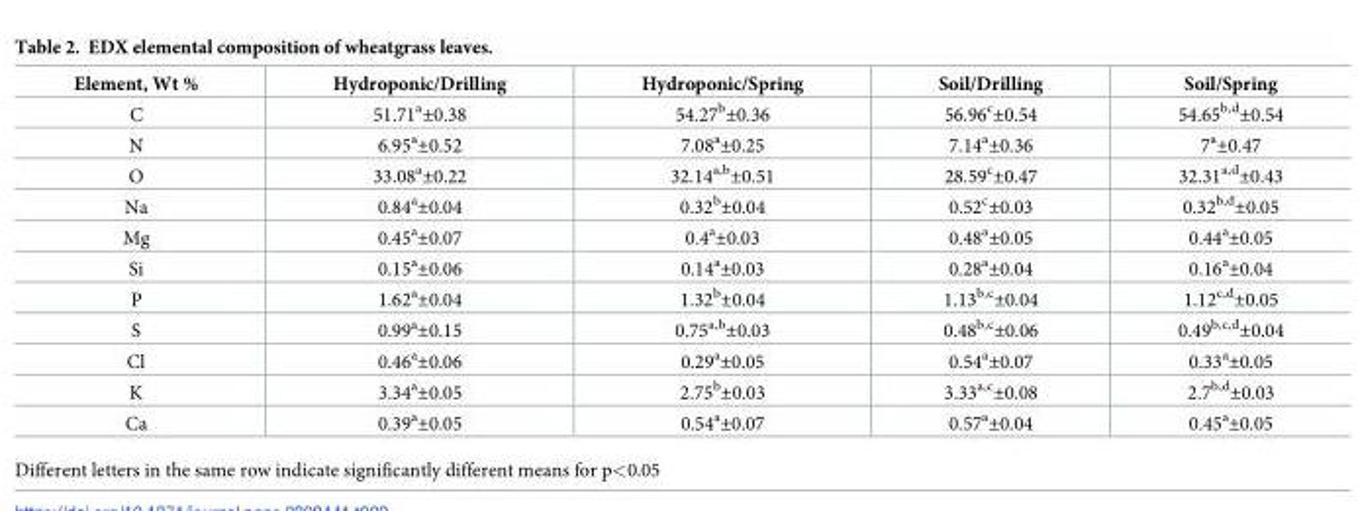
<table><thead><tr><td>Element, Wt %</td><td>Hydroponic/Drilling</td><td>Hydroponic/Spring</td><td>Soil/Drilling</td><td>Soil/Spring</td></tr></thead><tbody><tr><td>C</td><td>51.71<sup>a</sup>±0.38</td><td>54.27<sup>b</sup>±0.36</td><td>56.96<sup>c</sup>±0.54</td><td>54.65<sup>b,d</sup>±0.54</td></tr><tr><td>N</td><td>6.95<sup>a</sup>±0.52</td><td>7.08<sup>a</sup>±0.25</td><td>7.14<sup>a</sup>±0.36</td><td>7<sup>a</sup>±0.47</td></tr><tr><td>O</td><td>33.08<sup>a</sup>±0.22</td><td>32.14<sup>a,b</sup>±0.51</td><td>28.59<sup>c</sup>±0.47</td><td>32.31<sup>a,d</sup>±0.43</td></tr><tr><td>Na</td><td>0.84<sup>a</sup>±0.04</td><td>0.32<sup>b</sup>±0.04</td><td>0.52<sup>c</sup>±0.03</td><td>0.32<sup>b,d</sup>±0.05</td></tr><tr><td>Mg</td><td>0.45<sup>a</sup>±0.07</td><td>0.4<sup>a</sup>±0.03</td><td>0.48<sup>a</sup>±0.05</td><td>0.44<sup>a</sup>±0.05</td></tr><tr><td>Si</td><td>0.15<sup>a</sup>±0.06</td><td>0.14<sup>a</sup>±0.03</td><td>0.28<sup>a</sup>±0.04</td><td>0.16<sup>a</sup>±0.04</td></tr><tr><td>P</td><td>1.62<sup>a</sup>±0.04</td><td>1.32<sup>b</sup>±0.04</td><td>1.13<sup>b,c</sup>±0.04</td><td>1.12<sup>c,d</sup>±0.05</td></tr><tr><td>S</td><td>0.99<sup>a</sup>±0.15</td><td>0.75<sup>a,b</sup>±0.03</td><td>0.48<sup>b,c</sup>±0.06</td><td>0.49<sup>b,c,d</sup>±0.04</td></tr><tr><td>Cl</td><td>0.46<sup>a</sup>±0.06</td><td>0.29<sup>a</sup>±0.05</td><td>0.54<sup>a</sup>±0.07</td><td>0.33<sup>a</sup>±0.05</td></tr><tr><td>K</td><td>3.34<sup>a</sup>±0.05</td><td>2.75<sup>b</sup>±0.03</td><td>3.33<sup>a,c</sup>±0.08</td><td>2.7<sup>b,d</sup>±0.03</td></tr><tr><td>Ca</td><td>0.39<sup>a</sup>±0.05</td><td>0.54<sup>a</sup>±0.07</td><td>0.57<sup>a</sup>±0.04</td><td>0.45<sup>a</sup>±0.05</td></tr></tbody></table>